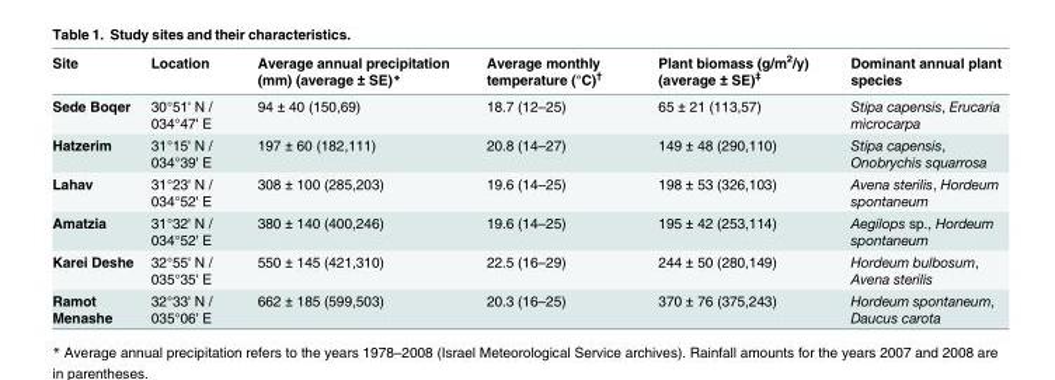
<table><thead><tr><td>Site</td><td>Location</td><td>Average annual precipitation (mm) (average ± SE)*</td><td>Average monthly temperature (°C)<sup>†</sup></td><td>Plant biomass (g/m<sup>2</sup>/y) (average ± SE)<sup>‡</sup></td><td>Dominant annual plant species</td></tr></thead><tbody><tr><td>Sede Boqer</td><td>30°51&#x27; N / 034°47&#x27; E</td><td>94 ± 40 (150,69)</td><td>18.7 (12–25)</td><td>65 ± 21 (113,57)</td><td>Stipa capensis, Erucaria microcarpa</td></tr><tr><td>Hatzerim</td><td>31°15&#x27; N / 034°39&#x27; E</td><td>197 ± 60 (182,111)</td><td>20.8 (14–27)</td><td>149 ± 48 (290,110)</td><td>Stipa capensis, Onobrychis squarrosa</td></tr><tr><td>Lahav</td><td>31°23&#x27; N / 034°52&#x27; E</td><td>308 ± 100 (285,203)</td><td>19.6 (14–25)</td><td>198 ± 53 (326,103)</td><td>Avena sterilis, Hordeum spontaneum</td></tr><tr><td>Amatzia</td><td>31°32&#x27; N / 034°52&#x27; E</td><td>380 ± 140 (400,246)</td><td>19.6 (14–25)</td><td>195 ± 42 (253,114)</td><td>Aegilops sp., Hordeum spontaneum</td></tr><tr><td>Karei Deshe</td><td>32°55&#x27; N / 035°35&#x27; E</td><td>550 ± 145 (421,310)</td><td>22.5 (16–29)</td><td>244 ± 50 (280,149)</td><td>Hordeum bulbosum, Avena sterilis</td></tr><tr><td>Ramot Menashe</td><td>32°33&#x27; N / 035°06&#x27; E</td><td>662 ± 185 (599,503)</td><td>20.3 (16–25)</td><td>370 ± 76 (375,243)</td><td>Hordeum spontaneum, Daucus carota</td></tr></tbody></table>